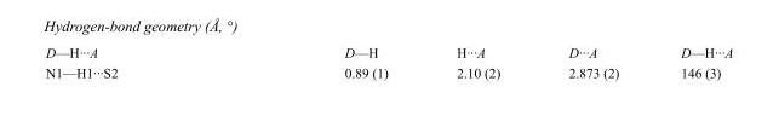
<table><tbody><tr><td>D—H···A</td><td>D—H</td><td>H···A</td><td>D···A</td><td>D—H···A</td></tr><tr><td>N1—H1···S2</td><td>0.89 (1)</td><td>2.10 (2)</td><td>2.873 (2)</td><td>146 (3)</td></tr></tbody></table>